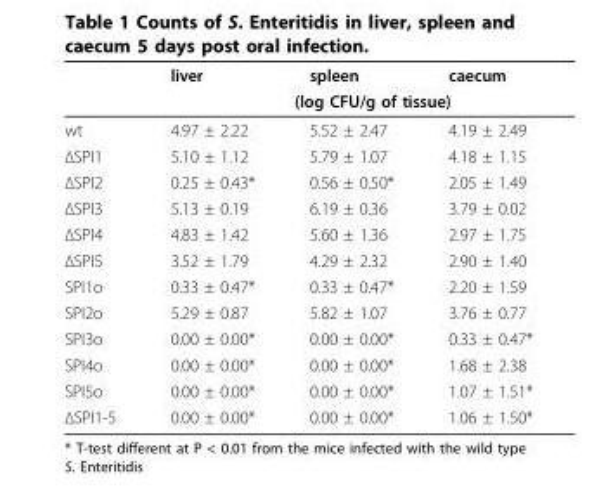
<table><thead><tr><td rowspan="2"></td><td>liver</td><td>spleen</td><td>caecum</td></tr><tr><td colspan="3">(log CFU/g of tissue)</td></tr></thead><tbody><tr><td>wt</td><td>4.97 ± 2.22</td><td>5.52 ± 2.47</td><td>4.19 ± 2.49</td></tr><tr><td>ΔSPI1</td><td>5.10 ± 1.12</td><td>5.79 ± 1.07</td><td>4.18 ± 1.15</td></tr><tr><td>ΔSPI2</td><td>0.25 ± 0.43*</td><td>0.56 ± 0.50*</td><td>2.05 ± 1.49</td></tr><tr><td>ΔSPI3</td><td>5.13 ± 0.19</td><td>6.19 ± 0.36</td><td>3.79 ± 0.02</td></tr><tr><td>ΔSPI4</td><td>4.83 ± 1.42</td><td>5.60 ± 1.36</td><td>2.97 ± 1.75</td></tr><tr><td>ΔSPI5</td><td>3.52 ± 1.79</td><td>4.29 ± 2.32</td><td>2.90 ± 1.40</td></tr><tr><td>SPI1o</td><td>0.33 ± 0.47*</td><td>0.33 ± 0.47*</td><td>2.20 ± 1.59</td></tr><tr><td>SPI2o</td><td>5.29 ± 0.87</td><td>5.82 ± 1.07</td><td>3.76 ± 0.77</td></tr><tr><td>SPI3o</td><td>0.00 ± 0.00*</td><td>0.00 ± 0.00*</td><td>0.33 ± 0.47*</td></tr><tr><td>SPI4o</td><td>0.00 ± 0.00*</td><td>0.00 ± 0.00*</td><td>1.68 ± 2.38</td></tr><tr><td>SPI5o</td><td>0.00 ± 0.00*</td><td>0.00 ± 0.00*</td><td>1.07 ± 1.51*</td></tr><tr><td>ΔSPI1-5</td><td>0.00 ± 0.00*</td><td>0.00 ± 0.00*</td><td>1.06 ± 1.50*</td></tr></tbody></table>